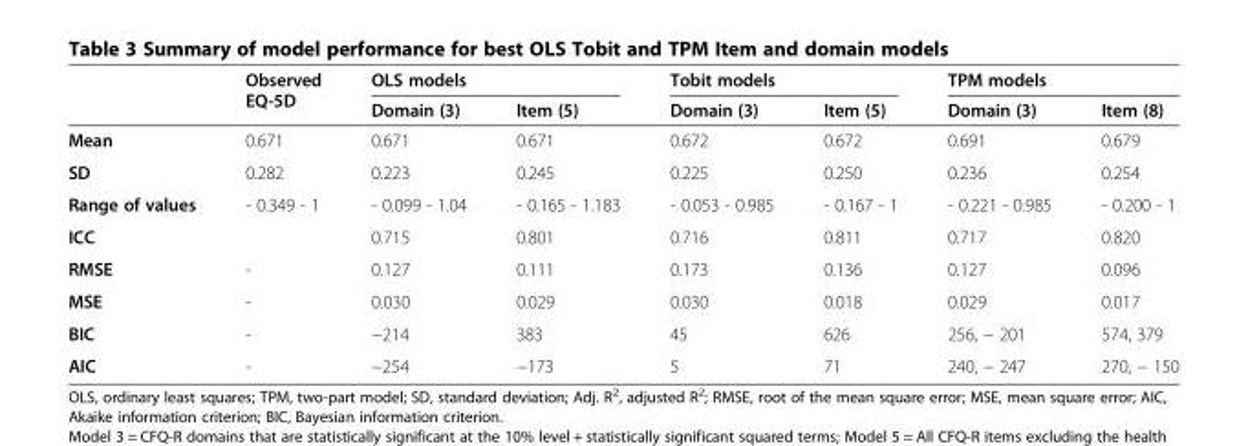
<table><thead><tr><td rowspan="2"></td><td rowspan="2">Observed EQ-5D</td><td colspan="2">OLS models</td><td colspan="2">Tobit models</td><td colspan="2">TPM models</td></tr><tr><td>Domain (3)</td><td>Item (5)</td><td>Domain (3)</td><td>Item (5)</td><td>Domain (3)</td><td>Item (8)</td></tr></thead><tbody><tr><td>Mean</td><td>0.671</td><td>0.671</td><td>0.671</td><td>0.672</td><td>0.672</td><td>0.691</td><td>0.679</td></tr><tr><td>SD</td><td>0.282</td><td>0.223</td><td>0.245</td><td>0.225</td><td>0.250</td><td>0.236</td><td>0.254</td></tr><tr><td>Range of values</td><td>- 0.349 - 1</td><td>- 0.099 - 1.04</td><td>- 0.165 - 1.183</td><td>- 0.053 - 0.985</td><td>- 0.167 - 1</td><td>- 0.221 - 0.985</td><td>- 0.200 - 1</td></tr><tr><td>ICC</td><td></td><td>0.715</td><td>0.801</td><td>0.716</td><td>0.811</td><td>0.717</td><td>0.820</td></tr><tr><td>RMSE</td><td>-</td><td>0.127</td><td>0.111</td><td>0.173</td><td>0.136</td><td>0.127</td><td>0.096</td></tr><tr><td>MSE</td><td>-</td><td>0.030</td><td>0.029</td><td>0.030</td><td>0.018</td><td>0.029</td><td>0.017</td></tr><tr><td>BIC</td><td>-</td><td>−214</td><td>383</td><td>45</td><td>626</td><td>256, − 201</td><td>574, 379</td></tr><tr><td>AIC</td><td>-</td><td>−254</td><td>−173</td><td>5</td><td>71</td><td>240, − 247</td><td>270, − 150</td></tr></tbody></table>